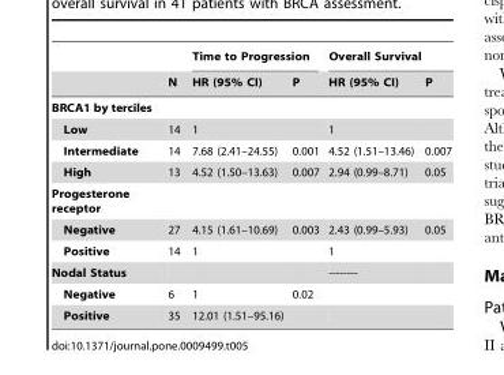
<table><thead><tr><td rowspan="2"></td><td rowspan="2">N</td><td colspan="2">Time to Progression</td><td colspan="2">Overall Survival</td></tr><tr><td>HR (95% CI)</td><td>P</td><td>HR (95% CI)</td><td>P</td></tr></thead><tbody><tr><td colspan="6">BRCA1 by terciles</td></tr><tr><td>Low</td><td>14</td><td>1</td><td></td><td>1</td><td></td></tr><tr><td>Intermediate</td><td>14</td><td>7.68 (2.41–24.55)</td><td>0.001</td><td>4.52 (1.51–13.46)</td><td>0.007</td></tr><tr><td>High</td><td>13</td><td>4.52 (1.50–13.63)</td><td>0.007</td><td>2.94 (0.99–8.71)</td><td>0.05</td></tr><tr><td colspan="6">Progesterone receptor</td></tr><tr><td>Negative</td><td>27</td><td>4.15 (1.61–10.69)</td><td>0.003</td><td>2.43 (0.99–5.93)</td><td>0.05</td></tr><tr><td>Positive</td><td>14</td><td>1</td><td></td><td>1</td><td></td></tr><tr><td>Nodal Status</td><td></td><td></td><td></td><td>--------</td><td></td></tr><tr><td>Negative</td><td>6</td><td>1</td><td>0.02</td><td></td><td></td></tr><tr><td>Positive</td><td>35</td><td>12.01 (1.51–95.16)</td><td></td><td></td><td></td></tr></tbody></table>